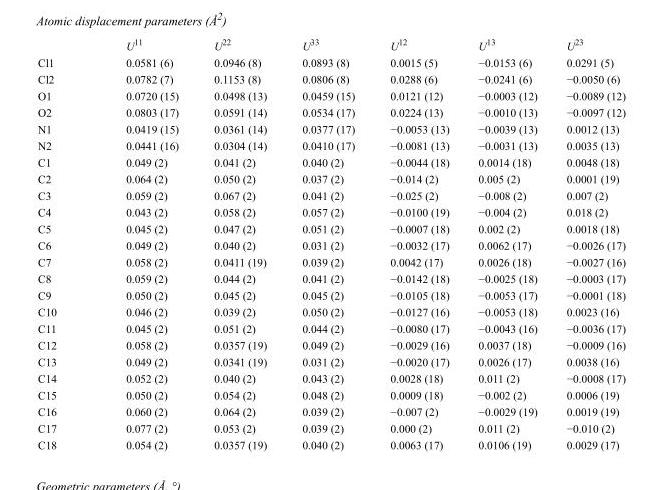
<table><thead><tr><td></td><td>U<sup>11</sup></td><td>U<sup>22</sup></td><td>U<sup>33</sup></td><td>U<sup>12</sup></td><td>U<sup>13</sup></td><td>U<sup>23</sup></td></tr></thead><tbody><tr><td>Cl1</td><td>0.0581 (6)</td><td>0.0946 (8)</td><td>0.0893 (8)</td><td>0.0015 (5)</td><td>−0.0153 (6)</td><td>0.0291 (5)</td></tr><tr><td>Cl2</td><td>0.0782 (7)</td><td>0.1153 (8)</td><td>0.0806 (8)</td><td>0.0288 (6)</td><td>−0.0241 (6)</td><td>−0.0050 (6)</td></tr><tr><td>O1</td><td>0.0720 (15)</td><td>0.0498 (13)</td><td>0.0459 (15)</td><td>0.0121 (12)</td><td>−0.0003 (12)</td><td>−0.0089 (12)</td></tr><tr><td>O2</td><td>0.0803 (17)</td><td>0.0591 (14)</td><td>0.0534 (17)</td><td>0.0224 (13)</td><td>−0.0010 (13)</td><td>−0.0097 (12)</td></tr><tr><td>N1</td><td>0.0419 (15)</td><td>0.0361 (14)</td><td>0.0377 (17)</td><td>−0.0053 (13)</td><td>−0.0039 (13)</td><td>0.0012 (13)</td></tr><tr><td>N2</td><td>0.0441 (16)</td><td>0.0304 (14)</td><td>0.0410 (17)</td><td>−0.0081 (13)</td><td>−0.0031 (13)</td><td>0.0035 (13)</td></tr><tr><td>C1</td><td>0.049 (2)</td><td>0.041 (2)</td><td>0.040 (2)</td><td>−0.0044 (18)</td><td>0.0014 (18)</td><td>0.0048 (18)</td></tr><tr><td>C2</td><td>0.064 (2)</td><td>0.050 (2)</td><td>0.037 (2)</td><td>−0.014 (2)</td><td>0.005 (2)</td><td>0.0001 (19)</td></tr><tr><td>C3</td><td>0.059 (2)</td><td>0.067 (2)</td><td>0.041 (2)</td><td>−0.025 (2)</td><td>−0.008 (2)</td><td>0.007 (2)</td></tr><tr><td>C4</td><td>0.043 (2)</td><td>0.058 (2)</td><td>0.057 (2)</td><td>−0.0100 (19)</td><td>−0.004 (2)</td><td>0.018 (2)</td></tr><tr><td>C5</td><td>0.045 (2)</td><td>0.047 (2)</td><td>0.051 (2)</td><td>−0.0007 (18)</td><td>0.002 (2)</td><td>0.0018 (18)</td></tr><tr><td>C6</td><td>0.049 (2)</td><td>0.040 (2)</td><td>0.031 (2)</td><td>−0.0032 (17)</td><td>0.0062 (17)</td><td>−0.0026 (17)</td></tr><tr><td>C7</td><td>0.058 (2)</td><td>0.0411 (19)</td><td>0.039 (2)</td><td>0.0042 (17)</td><td>0.0026 (18)</td><td>−0.0027 (16)</td></tr><tr><td>C8</td><td>0.059 (2)</td><td>0.044 (2)</td><td>0.041 (2)</td><td>−0.0142 (18)</td><td>−0.0025 (18)</td><td>−0.0003 (17)</td></tr><tr><td>C9</td><td>0.050 (2)</td><td>0.045 (2)</td><td>0.045 (2)</td><td>−0.0105 (18)</td><td>−0.0053 (17)</td><td>−0.0001 (18)</td></tr><tr><td>C10</td><td>0.046 (2)</td><td>0.039 (2)</td><td>0.050 (2)</td><td>−0.0127 (16)</td><td>−0.0053 (18)</td><td>0.0023 (16)</td></tr><tr><td>C11</td><td>0.045 (2)</td><td>0.051 (2)</td><td>0.044 (2)</td><td>−0.0080 (17)</td><td>−0.0043 (16)</td><td>−0.0036 (17)</td></tr><tr><td>C12</td><td>0.058 (2)</td><td>0.0357 (19)</td><td>0.049 (2)</td><td>−0.0029 (16)</td><td>0.0037 (18)</td><td>−0.0009 (16)</td></tr><tr><td>C13</td><td>0.049 (2)</td><td>0.0341 (19)</td><td>0.031 (2)</td><td>−0.0020 (17)</td><td>0.0026 (17)</td><td>0.0038 (16)</td></tr><tr><td>C14</td><td>0.052 (2)</td><td>0.040 (2)</td><td>0.043 (2)</td><td>0.0028 (18)</td><td>0.011 (2)</td><td>−0.0008 (17)</td></tr><tr><td>C15</td><td>0.050 (2)</td><td>0.054 (2)</td><td>0.048 (2)</td><td>0.0009 (18)</td><td>−0.002 (2)</td><td>0.0006 (19)</td></tr><tr><td>C16</td><td>0.060 (2)</td><td>0.064 (2)</td><td>0.039 (2)</td><td>−0.007 (2)</td><td>−0.0029 (19)</td><td>0.0019 (19)</td></tr><tr><td>C17</td><td>0.077 (2)</td><td>0.053 (2)</td><td>0.039 (2)</td><td>0.000 (2)</td><td>0.011 (2)</td><td>−0.010 (2)</td></tr><tr><td>C18</td><td>0.054 (2)</td><td>0.0357 (19)</td><td>0.040 (2)</td><td>0.0063 (17)</td><td>0.0106 (19)</td><td>0.0029 (17)</td></tr></tbody></table>